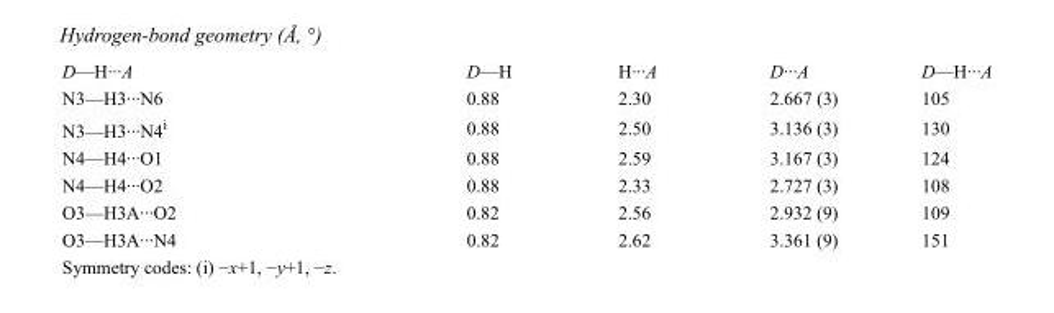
<table><tbody><tr><td>D—H···A</td><td>D—H</td><td>H···A</td><td>D···A</td><td>D—H···A</td></tr><tr><td>N3—H3···N6</td><td>0.88</td><td>2.30</td><td>2.667 (3)</td><td>105</td></tr><tr><td>N3—H3···N4<sup>i</sup></td><td>0.88</td><td>2.50</td><td>3.136 (3)</td><td>130</td></tr><tr><td>N4—H4···O1</td><td>0.88</td><td>2.59</td><td>3.167 (3)</td><td>124</td></tr><tr><td>N4—H4···O2</td><td>0.88</td><td>2.33</td><td>2.727 (3)</td><td>108</td></tr><tr><td>O3—H3A···O2</td><td>0.82</td><td>2.56</td><td>2.932 (9)</td><td>109</td></tr><tr><td>O3—H3A···N4</td><td>0.82</td><td>2.62</td><td>3.361 (9)</td><td>151</td></tr></tbody></table>